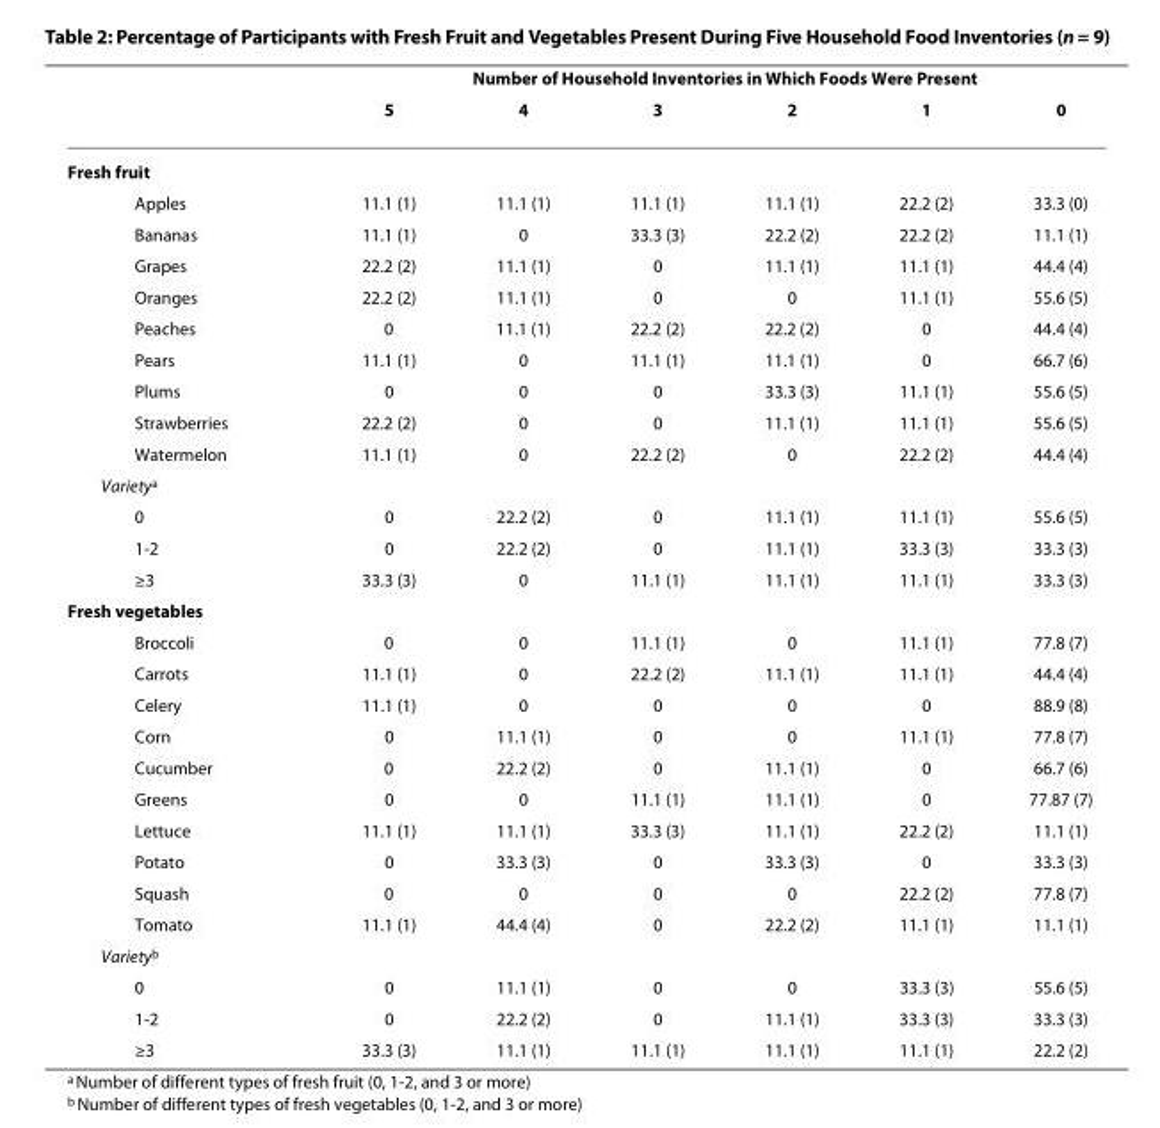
<table><thead><tr><td rowspan="2"></td><td colspan="6">Number of Household Inventories in Which Foods Were Present</td></tr><tr><td>5</td><td>4</td><td>3</td><td>2</td><td>1</td><td>0</td></tr></thead><tbody><tr><td colspan="7">Fresh fruit</td></tr><tr><td>Apples</td><td>11.1 (1)</td><td>11.1 (1)</td><td>11.1 (1)</td><td>11.1 (1)</td><td>22.2 (2)</td><td>33.3 (0)</td></tr><tr><td>Bananas</td><td>11.1 (1)</td><td>0</td><td>33.3 (3)</td><td>22.2 (2)</td><td>22.2 (2)</td><td>11.1 (1)</td></tr><tr><td>Grapes</td><td>22.2 (2)</td><td>11.1 (1)</td><td>0</td><td>11.1 (1)</td><td>11.1 (1)</td><td>44.4 (4)</td></tr><tr><td>Oranges</td><td>22.2 (2)</td><td>11.1 (1)</td><td>0</td><td>0</td><td>11.1 (1)</td><td>55.6 (5)</td></tr><tr><td>Peaches</td><td>0</td><td>11.1 (1)</td><td>22.2 (2)</td><td>22.2 (2)</td><td>0</td><td>44.4 (4)</td></tr><tr><td>Pears</td><td>11.1 (1)</td><td>0</td><td>11.1 (1)</td><td>11.1 (1)</td><td>0</td><td>66.7 (6)</td></tr><tr><td>Plums</td><td>0</td><td>0</td><td>0</td><td>33.3 (3)</td><td>11.1 (1)</td><td>55.6 (5)</td></tr><tr><td>Strawberries</td><td>22.2 (2)</td><td>0</td><td>0</td><td>11.1 (1)</td><td>11.1 (1)</td><td>55.6 (5)</td></tr><tr><td>Watermelon</td><td>11.1 (1)</td><td>0</td><td>22.2 (2)</td><td>0</td><td>22.2 (2)</td><td>44.4 (4)</td></tr><tr><td colspan="7">Variety<sup>a</sup></td></tr><tr><td>0</td><td>0</td><td>22.2 (2)</td><td>0</td><td>11.1 (1)</td><td>11.1 (1)</td><td>55.6 (5)</td></tr><tr><td>1-2</td><td>0</td><td>22.2 (2)</td><td>0</td><td>11.1 (1)</td><td>33.3 (3)</td><td>33.3 (3)</td></tr><tr><td>≥3</td><td>33.3 (3)</td><td>0</td><td>11.1 (1)</td><td>11.1 (1)</td><td>11.1 (1)</td><td>33.3 (3)</td></tr><tr><td colspan="7">Fresh vegetables</td></tr><tr><td>Broccoli</td><td>0</td><td>0</td><td>11.1 (1)</td><td>0</td><td>11.1 (1)</td><td>77.8 (7)</td></tr><tr><td>Carrots</td><td>11.1 (1)</td><td>0</td><td>22.2 (2)</td><td>11.1 (1)</td><td>11.1 (1)</td><td>44.4 (4)</td></tr><tr><td>Celery</td><td>11.1 (1)</td><td>0</td><td>0</td><td>0</td><td>0</td><td>88.9 (8)</td></tr><tr><td>Corn</td><td>0</td><td>11.1 (1)</td><td>0</td><td>0</td><td>11.1 (1)</td><td>77.8 (7)</td></tr><tr><td>Cucumber</td><td>0</td><td>22.2 (2)</td><td>0</td><td>11.1 (1)</td><td>0</td><td>66.7 (6)</td></tr><tr><td>Greens</td><td>0</td><td>0</td><td>11.1 (1)</td><td>11.1 (1)</td><td>0</td><td>77.87 (7)</td></tr><tr><td>Lettuce</td><td>11.1 (1)</td><td>11.1 (1)</td><td>33.3 (3)</td><td>11.1 (1)</td><td>22.2 (2)</td><td>11.1 (1)</td></tr><tr><td>Potato</td><td>0</td><td>33.3 (3)</td><td>0</td><td>33.3 (3)</td><td>0</td><td>33.3 (3)</td></tr><tr><td>Squash</td><td>0</td><td>0</td><td>0</td><td>0</td><td>22.2 (2)</td><td>77.8 (7)</td></tr><tr><td>Tomato</td><td>11.1 (1)</td><td>44.4 (4)</td><td>0</td><td>22.2 (2)</td><td>11.1 (1)</td><td>11.1 (1)</td></tr><tr><td colspan="7">Variety<sup>b</sup></td></tr><tr><td>0</td><td>0</td><td>11.1 (1)</td><td>0</td><td>0</td><td>33.3 (3)</td><td>55.6 (5)</td></tr><tr><td>1-2</td><td>0</td><td>22.2 (2)</td><td>0</td><td>11.1 (1)</td><td>33.3 (3)</td><td>33.3 (3)</td></tr><tr><td>≥3</td><td>33.3 (3)</td><td>11.1 (1)</td><td>11.1 (1)</td><td>11.1 (1)</td><td>11.1 (1)</td><td>22.2 (2)</td></tr></tbody></table>